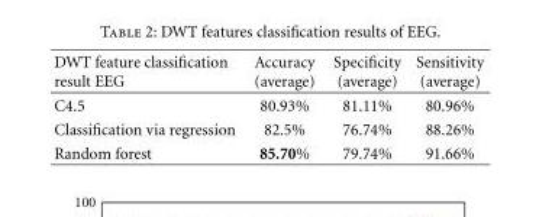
<table><thead><tr><td>DWT feature classification result EEG</td><td>Accuracy (average)</td><td>Specificity (average)</td><td>Sensitivity (average)</td></tr></thead><tbody><tr><td>C4.5</td><td>80.93%</td><td>81.11%</td><td>80.96%</td></tr><tr><td>Classification via regression</td><td>82.5%</td><td>76.74%</td><td>88.26%</td></tr><tr><td>Random forest</td><td>85.70%</td><td>79.74%</td><td>91.66%</td></tr></tbody></table>